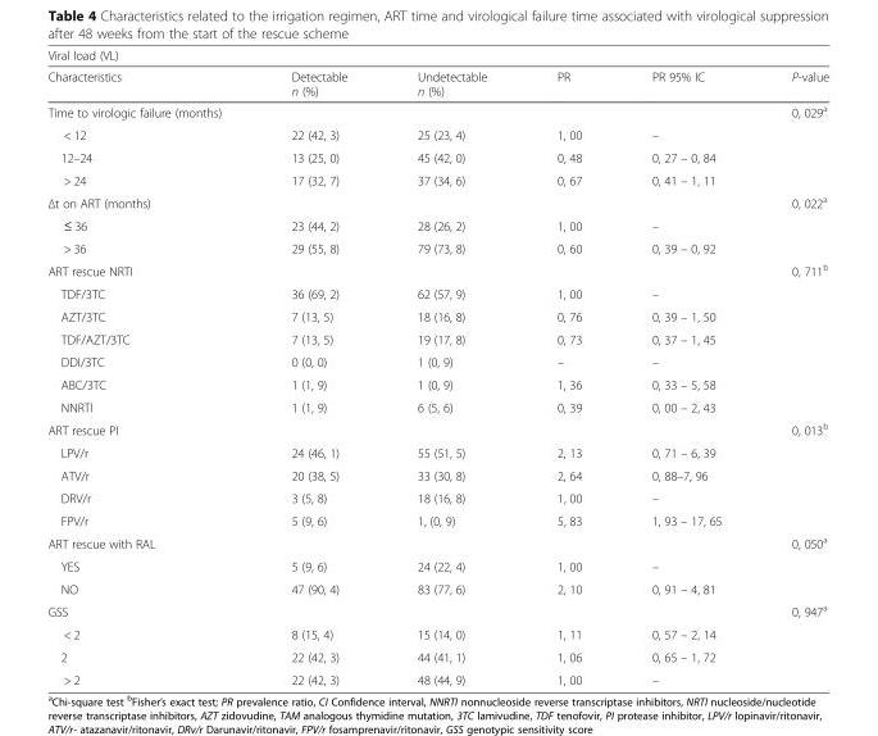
<table><thead><tr><td colspan="6">Viral load (VL)</td></tr><tr><td>Characteristics</td><td>Detectable n (%)</td><td>Undetectable n (%)</td><td>PR</td><td>PR 95% IC</td><td>P-value</td></tr></thead><tbody><tr><td>Time to virologic failure (months)</td><td></td><td></td><td></td><td></td><td>0, 029<sup>a</sup></td></tr><tr><td>&lt; 12</td><td>22 (42, 3)</td><td>25 (23, 4)</td><td>1, 00</td><td>–</td><td></td></tr><tr><td>12–24</td><td>13 (25, 0)</td><td>45 (42, 0)</td><td>0, 48</td><td>0, 27 – 0, 84</td><td></td></tr><tr><td>&gt; 24</td><td>17 (32, 7)</td><td>37 (34, 6)</td><td>0, 67</td><td>0, 41 – 1, 11</td><td></td></tr><tr><td>Δt on ART (months)</td><td></td><td></td><td></td><td></td><td>0, 022<sup>a</sup></td></tr><tr><td>≤ 36</td><td>23 (44, 2)</td><td>28 (26, 2)</td><td>1, 00</td><td>–</td><td></td></tr><tr><td>&gt; 36</td><td>29 (55, 8)</td><td>79 (73, 8)</td><td>0, 60</td><td>0, 39 – 0, 92</td><td></td></tr><tr><td>ART rescue NRTI</td><td></td><td></td><td></td><td></td><td>0, 711<sup>b</sup></td></tr><tr><td>TDF/3TC</td><td>36 (69, 2)</td><td>62 (57, 9)</td><td>1, 00</td><td>–</td><td></td></tr><tr><td>AZT/3TC</td><td>7 (13, 5)</td><td>18 (16, 8)</td><td>0, 76</td><td>0, 39 – 1, 50</td><td></td></tr><tr><td>TDF/AZT/3TC</td><td>7 (13, 5)</td><td>19 (17, 8)</td><td>0, 73</td><td>0, 37 – 1, 45</td><td></td></tr><tr><td>DDI/3TC</td><td>0 (0, 0)</td><td>1 (0, 9)</td><td>–</td><td>–</td><td></td></tr><tr><td>ABC/3TC</td><td>1 (1, 9)</td><td>1 (0, 9)</td><td>1, 36</td><td>0, 33 – 5, 58</td><td></td></tr><tr><td>NNRTI</td><td>1 (1, 9)</td><td>6 (5, 6)</td><td>0, 39</td><td>0, 00 – 2, 43</td><td></td></tr><tr><td>ART rescue PI</td><td></td><td></td><td></td><td></td><td>0, 013<sup>b</sup></td></tr><tr><td>LPV/r</td><td>24 (46, 1)</td><td>55 (51, 5)</td><td>2, 13</td><td>0, 71 – 6, 39</td><td></td></tr><tr><td>ATV/r</td><td>20 (38, 5)</td><td>33 (30, 8)</td><td>2, 64</td><td>0, 88–7, 96</td><td></td></tr><tr><td>DRV/r</td><td>3 (5, 8)</td><td>18 (16, 8)</td><td>1, 00</td><td>–</td><td></td></tr><tr><td>FPV/r</td><td>5 (9, 6)</td><td>1, (0, 9)</td><td>5, 83</td><td>1, 93 – 17, 65</td><td></td></tr><tr><td>ART rescue with RAL</td><td></td><td></td><td></td><td></td><td>0, 050<sup>a</sup></td></tr><tr><td>YES</td><td>5 (9, 6)</td><td>24 (22, 4)</td><td>1, 00</td><td>–</td><td></td></tr><tr><td>NO</td><td>47 (90, 4)</td><td>83 (77, 6)</td><td>2, 10</td><td>0, 91 – 4, 81</td><td></td></tr><tr><td>GSS</td><td></td><td></td><td></td><td></td><td>0, 947<sup>a</sup></td></tr><tr><td>&lt; 2</td><td>8 (15, 4)</td><td>15 (14, 0)</td><td>1, 11</td><td>0, 57 – 2, 14</td><td></td></tr><tr><td>2</td><td>22 (42, 3)</td><td>44 (41, 1)</td><td>1, 06</td><td>0, 65 – 1, 72</td><td></td></tr><tr><td>&gt; 2</td><td>22 (42, 3)</td><td>48 (44, 9)</td><td>1, 00</td><td>–</td><td></td></tr></tbody></table>